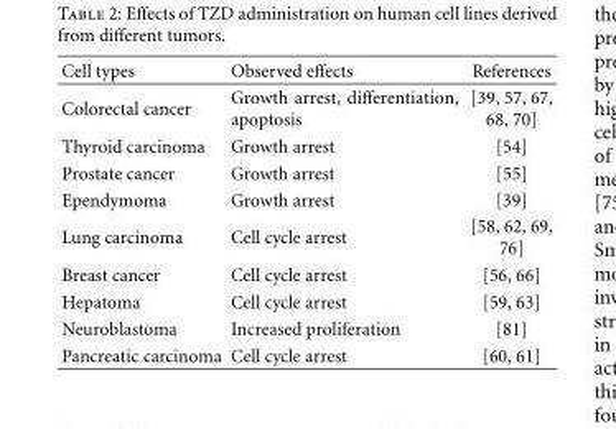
<table><thead><tr><td>Cell types</td><td>Observed effects</td><td>References</td></tr></thead><tbody><tr><td>Colorectal cancer</td><td>Growth arrest, differentiation, apoptosis</td><td>[39, 57, 67, 68, 70]</td></tr><tr><td>Thyroid carcinoma</td><td>Growth arrest</td><td>[54]</td></tr><tr><td>Prostate cancer</td><td>Growth arrest</td><td>[55]</td></tr><tr><td>Ependymoma</td><td>Growth arrest</td><td>[39]</td></tr><tr><td>Lung carcinoma</td><td>Cell cycle arrest</td><td>[58, 62, 69, 76]</td></tr><tr><td>Breast cancer</td><td>Cell cycle arrest</td><td>[56, 66]</td></tr><tr><td>Hepatoma</td><td>Cell cycle arrest</td><td>[59, 63]</td></tr><tr><td>Neuroblastoma</td><td>Increased proliferation</td><td>[81]</td></tr><tr><td>Pancreatic carcinoma</td><td>Cell cycle arrest</td><td>[60, 61]</td></tr></tbody></table>